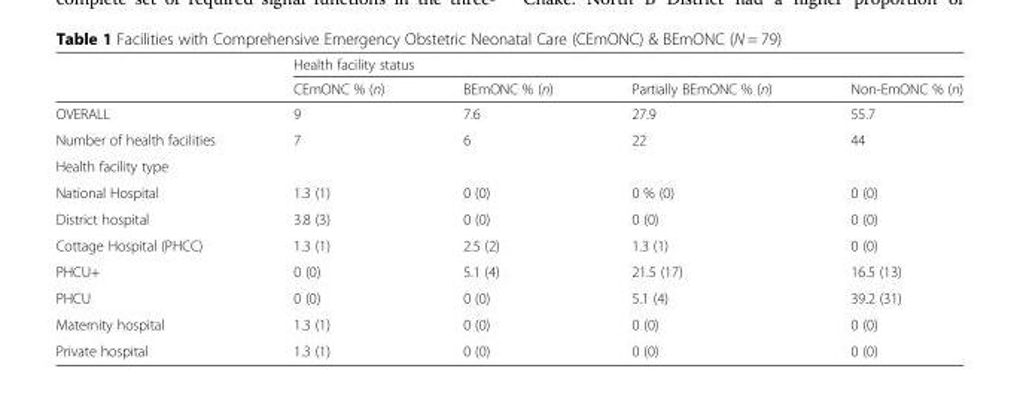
<table><thead><tr><td rowspan="2"></td><td colspan="4">Health facility status</td></tr><tr><td>CEmONC % (n)</td><td>BEmONC % (n)</td><td>Partially BEmONC % (n)</td><td>Non-EmONC % (n)</td></tr></thead><tbody><tr><td>OVERALL</td><td>9</td><td>7.6</td><td>27.9</td><td>55.7</td></tr><tr><td>Number of health facilities</td><td>7</td><td>6</td><td>22</td><td>44</td></tr><tr><td colspan="5">Health facility type</td></tr><tr><td>National Hospital</td><td>1.3 (1)</td><td>0 (0)</td><td>0 % (0)</td><td>0 (0)</td></tr><tr><td>District hospital</td><td>3.8 (3)</td><td>0 (0)</td><td>0 (0)</td><td>0 (0)</td></tr><tr><td>Cottage Hospital (PHCC)</td><td>1.3 (1)</td><td>2.5 (2)</td><td>1.3 (1)</td><td>0 (0)</td></tr><tr><td>PHCU+</td><td>0 (0)</td><td>5.1 (4)</td><td>21.5 (17)</td><td>16.5 (13)</td></tr><tr><td>PHCU</td><td>0 (0)</td><td>0 (0)</td><td>5.1 (4)</td><td>39.2 (31)</td></tr><tr><td>Maternity hospital</td><td>1.3 (1)</td><td>0 (0)</td><td>0 (0)</td><td>0 (0)</td></tr><tr><td>Private hospital</td><td>1.3 (1)</td><td>0 (0)</td><td>0 (0)</td><td>0 (0)</td></tr></tbody></table>